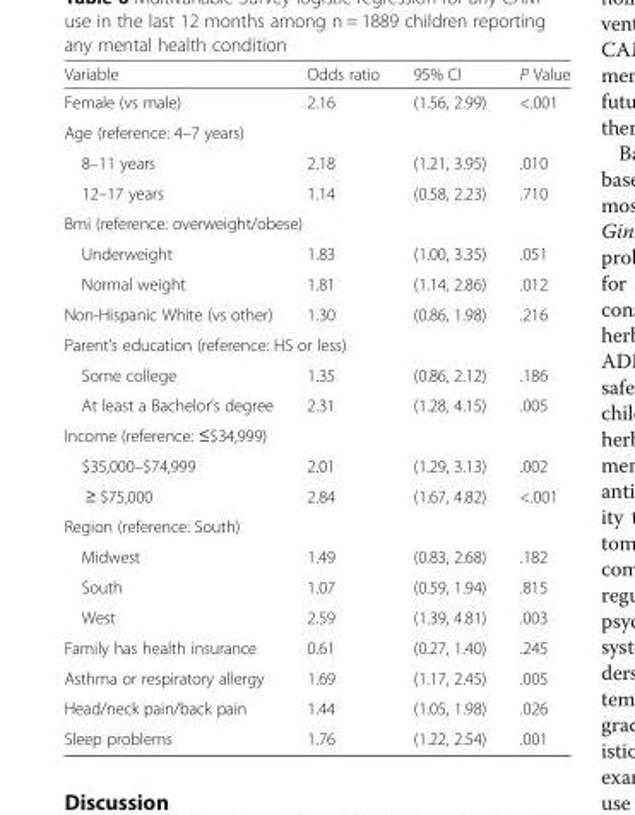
<table><thead><tr><td>Variable</td><td>Odds ratio</td><td>95% CI</td><td>P Value</td></tr></thead><tbody><tr><td>Female (vs male)</td><td>2.16</td><td>(1.56, 2.99)</td><td>&lt;.001</td></tr><tr><td colspan="4">Age (reference: 4–7 years)</td></tr><tr><td>8–11 years</td><td>2.18</td><td>(1.21, 3.95)</td><td>.010</td></tr><tr><td>12–17 years</td><td>1.14</td><td>(0.58, 2.23)</td><td>.710</td></tr><tr><td colspan="4">Bmi (reference: overweight/obese)</td></tr><tr><td>Underweight</td><td>1.83</td><td>(1.00, 3.35)</td><td>.051</td></tr><tr><td>Normal weight</td><td>1.81</td><td>(1.14, 2.86)</td><td>.012</td></tr><tr><td>Non-Hispanic White (vs other)</td><td>1.30</td><td>(0.86, 1.98)</td><td>.216</td></tr><tr><td colspan="4">Parent’s education (reference: HS or less)</td></tr><tr><td>Some college</td><td>1.35</td><td>(0.86, 2.12)</td><td>.186</td></tr><tr><td>At least a Bachelor’s degree</td><td>2.31</td><td>(1.28, 4.15)</td><td>.005</td></tr><tr><td colspan="4">Income (reference: ≤$34,999)</td></tr><tr><td>$35,000–$74,999</td><td>2.01</td><td>(1.29, 3.13)</td><td>.002</td></tr><tr><td>≥ $75,000</td><td>2.84</td><td>(1.67, 4.82)</td><td>&lt;.001</td></tr><tr><td colspan="4">Region (reference: South)</td></tr><tr><td>Midwest</td><td>1.49</td><td>(0.83, 2.68)</td><td>.182</td></tr><tr><td>South</td><td>1.07</td><td>(0.59, 1.94)</td><td>.815</td></tr><tr><td>West</td><td>2.59</td><td>(1.39, 4.81)</td><td>.003</td></tr><tr><td>Family has health insurance</td><td>0.61</td><td>(0.27, 1.40)</td><td>.245</td></tr><tr><td>Asthma or respiratory allergy</td><td>1.69</td><td>(1.17, 2.45)</td><td>.005</td></tr><tr><td>Head/neck pain/back pain</td><td>1.44</td><td>(1.05, 1.98)</td><td>.026</td></tr><tr><td>Sleep problems</td><td>1.76</td><td>(1.22, 2.54)</td><td>.001</td></tr></tbody></table>